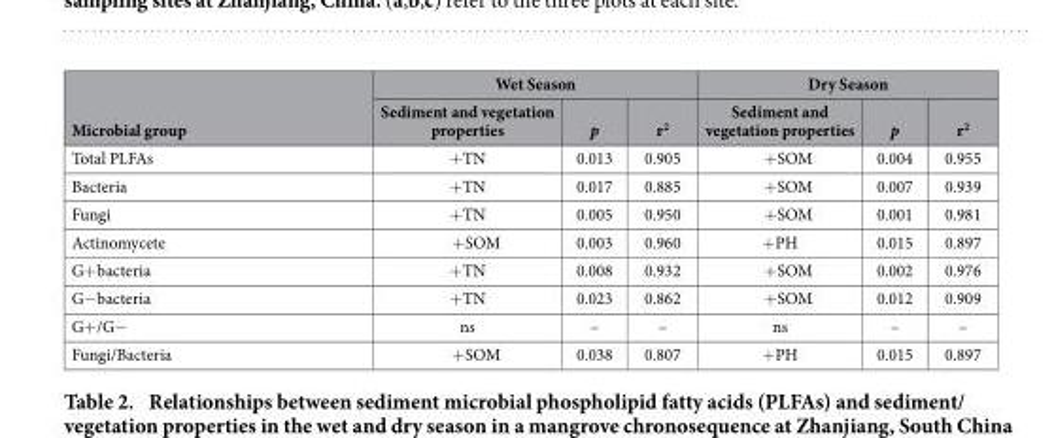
<table><thead><tr><td rowspan="2">Microbial group</td><td colspan="3">Wet Season</td><td colspan="3">Dry Season</td></tr><tr><td>Sediment and vegetation properties</td><td>p</td><td>r<sup>2</sup></td><td>Sediment and vegetation properties</td><td>p</td><td>r<sup>2</sup></td></tr></thead><tbody><tr><td>Total PLFAs</td><td>+ TN</td><td>0.013</td><td>0.905</td><td>+ SOM</td><td>0.004</td><td>0.955</td></tr><tr><td>Bacteria</td><td>+ TN</td><td>0.017</td><td>0.885</td><td>+ SOM</td><td>0.007</td><td>0.939</td></tr><tr><td>Fungi</td><td>+ TN</td><td>0.005</td><td>0.950</td><td>+ SOM</td><td>0.001</td><td>0.981</td></tr><tr><td>Actinomycete</td><td>+ SOM</td><td>0.003</td><td>0.960</td><td>+ PH</td><td>0.015</td><td>0.897</td></tr><tr><td>G+ bacteria</td><td>+ TN</td><td>0.008</td><td>0.932</td><td>+ SOM</td><td>0.002</td><td>0.976</td></tr><tr><td>G−bacteria</td><td>+ TN</td><td>0.023</td><td>0.862</td><td>+ SOM</td><td>0.012</td><td>0.909</td></tr><tr><td>G+ /G−</td><td>ns</td><td>–</td><td>–</td><td>ns</td><td>–</td><td>–</td></tr><tr><td>Fungi/Bacteria</td><td>+ SOM</td><td>0.038</td><td>0.807</td><td>+ PH</td><td>0.015</td><td>0.897</td></tr></tbody></table>